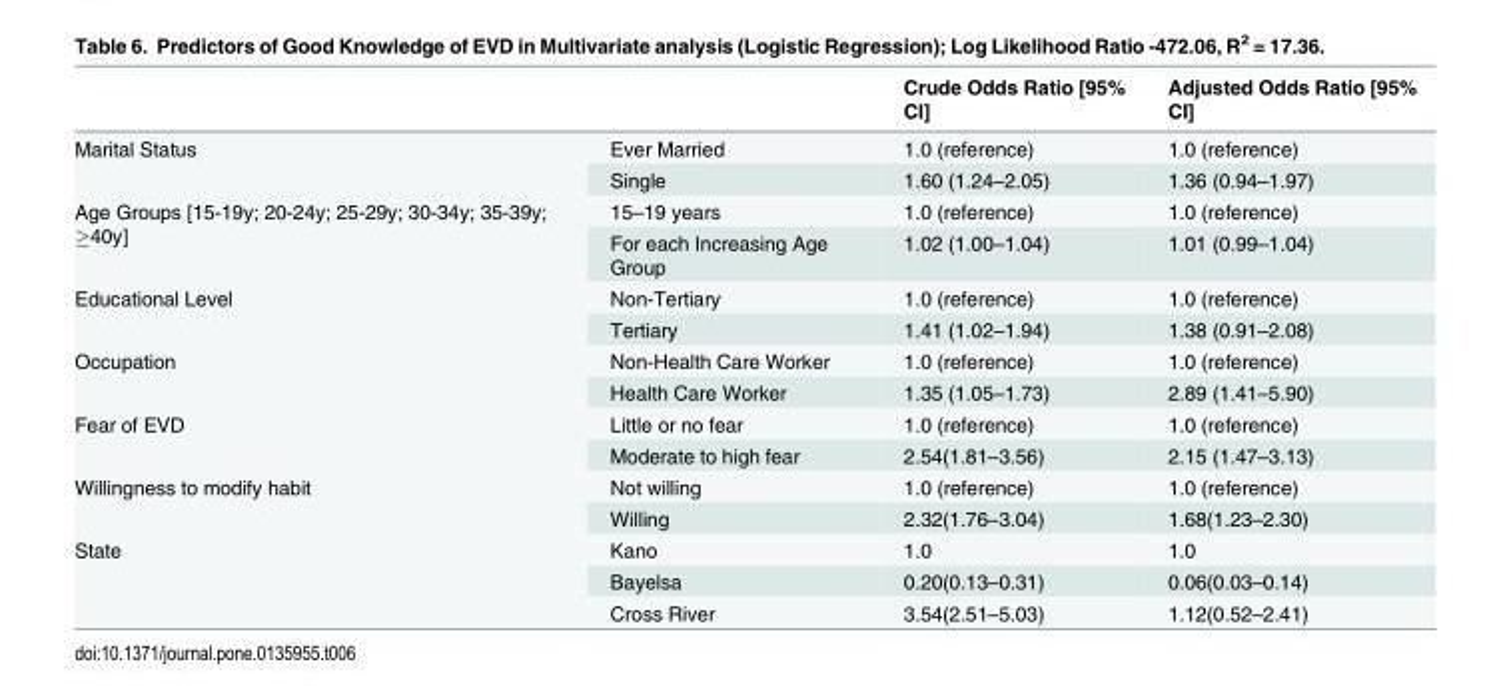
<table><thead><tr><td></td><td></td><td>Crude Odds Ratio [95% CI]</td><td>Adjusted Odds Ratio [95% CI]</td></tr></thead><tbody><tr><td rowspan="2">Marital Status</td><td>Ever Married</td><td>1.0 (reference)</td><td>1.0 (reference)</td></tr><tr><td>Single</td><td>1.60 (1.24–2.05)</td><td>1.36 (0.94–1.97)</td></tr><tr><td rowspan="2">Age Groups [15-19y; 20-24y; 25-29y; 30-34y; 35-39y; ≥40y]</td><td>15–19 years</td><td>1.0 (reference)</td><td>1.0 (reference)</td></tr><tr><td>For each Increasing Age Group</td><td>1.02 (1.00–1.04)</td><td>1.01 (0.99–1.04)</td></tr><tr><td rowspan="2">Educational Level</td><td>Non-Tertiary</td><td>1.0 (reference)</td><td>1.0 (reference)</td></tr><tr><td>Tertiary</td><td>1.41 (1.02–1.94)</td><td>1.38 (0.91–2.08)</td></tr><tr><td rowspan="2">Occupation</td><td>Non-Health Care Worker</td><td>1.0 (reference)</td><td>1.0 (reference)</td></tr><tr><td>Health Care Worker</td><td>1.35 (1.05–1.73)</td><td>2.89 (1.41–5.90)</td></tr><tr><td rowspan="2">Fear of EVD</td><td>Little or no fear</td><td>1.0 (reference)</td><td>1.0 (reference)</td></tr><tr><td>Moderate to high fear</td><td>2.54(1.81–3.56)</td><td>2.15 (1.47–3.13)</td></tr><tr><td rowspan="2">Willingness to modify habit</td><td>Not willing</td><td>1.0 (reference)</td><td>1.0 (reference)</td></tr><tr><td>Willing</td><td>2.32(1.76–3.04)</td><td>1.68(1.23–2.30)</td></tr><tr><td rowspan="3">State</td><td>Kano</td><td>1.0</td><td>1.0</td></tr><tr><td>Bayelsa</td><td>0.20(0.13–0.31)</td><td>0.06(0.03–0.14)</td></tr><tr><td>Cross River</td><td>3.54(2.51–5.03)</td><td>1.12(0.52–2.41)</td></tr></tbody></table>